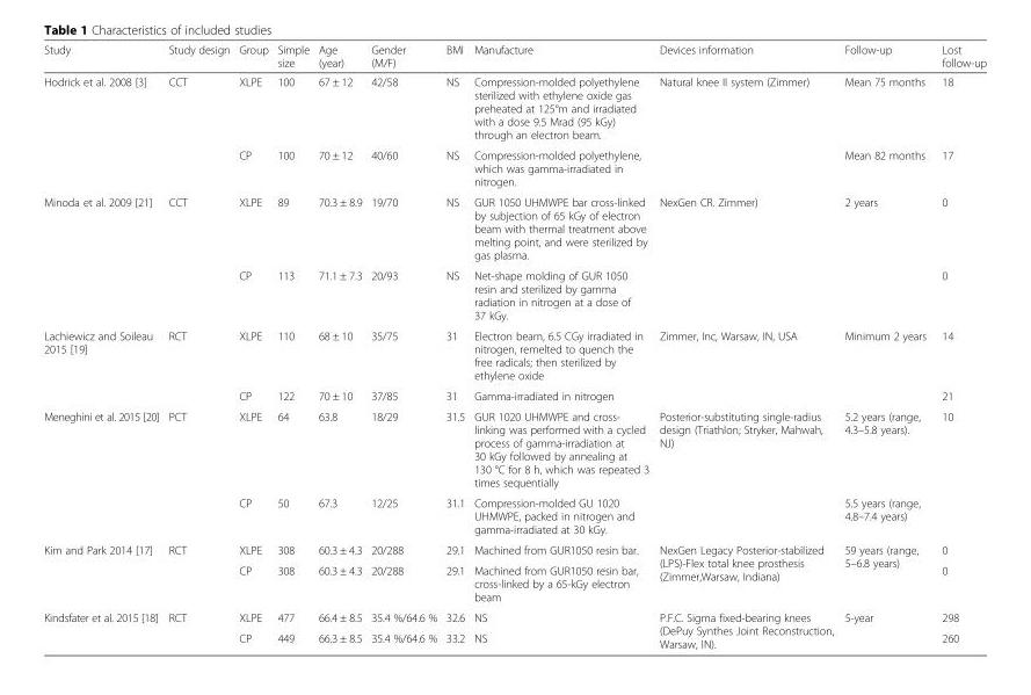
<table><thead><tr><td>Study</td><td>Study design</td><td>Group</td><td>Simple size</td><td>Age (year)</td><td>Gender (M/F)</td><td>BMI</td><td>Manufacture</td><td>Devices information</td><td>Follow-up</td><td>Lost follow-up</td></tr></thead><tbody><tr><td rowspan="2">Hodrick et al. 2008 [3]</td><td>CCT</td><td>XLPE</td><td>100</td><td>67 ± 12</td><td>42/58</td><td>NS</td><td>Compression-molded polyethylene sterilized with ethylene oxide gas preheated at 125°m and irradiated with a dose 9.5 Mrad (95 kGy) through an electron beam.</td><td rowspan="2">Natural knee II system (Zimmer)</td><td>Mean 75 months</td><td>18</td></tr><tr><td></td><td>CP</td><td>100</td><td>70 ± 12</td><td>40/60</td><td>NS</td><td>Compression-molded polyethylene, which was gamma-irradiated in nitrogen.</td><td>Mean 82 months</td><td>17</td></tr><tr><td rowspan="2">Minoda et al. 2009 [21]</td><td>CCT</td><td>XLPE</td><td>89</td><td>70.3 ± 8.9</td><td>19/70</td><td>NS</td><td>GUR 1050 UHMWPE bar cross-linked by subjection of 65 kGy of electron beam with thermal treatment above melting point, and were sterilized by gas plasma.</td><td rowspan="2">NexGen CR. Zimmer)</td><td rowspan="2">2 years</td><td>0</td></tr><tr><td></td><td>CP</td><td>113</td><td>71.1 ± 7.3</td><td>20/93</td><td>NS</td><td>Net-shape molding of GUR 1050 resin and sterilized by gamma radiation in nitrogen at a dose of 37 kGy.</td><td>0</td></tr><tr><td rowspan="2">Lachiewicz and Soileau 2015 [19]</td><td>RCT</td><td>XLPE</td><td>110</td><td>68 ± 10</td><td>35/75</td><td>31</td><td>Electron beam, 6.5 CGy irradiated in nitrogen, remelted to quench the free radicals; then sterilized by ethylene oxide</td><td rowspan="2">Zimmer, Inc, Warsaw, IN, USA</td><td>Minimum 2 years</td><td>14</td></tr><tr><td></td><td>CP</td><td>122</td><td>70 ± 10</td><td>37/85</td><td>31</td><td>Gamma-irradiated in nitrogen</td><td></td><td>21</td></tr><tr><td rowspan="2">Meneghini et al. 2015 [20]</td><td>PCT</td><td>XLPE</td><td>64</td><td>63.8</td><td>18/29</td><td>31.5</td><td>GUR 1020 UHMWPE and cross- linking was performed with a cycled process of gamma-irradiation at 30 kGy followed by annealing at 130 °C for 8 h, which was repeated 3 times sequentially</td><td rowspan="2">Posterior-substituting single-radius design (Triathlon; Stryker, Mahwah, NJ)</td><td>5.2 years (range, 4.3–5.8 years).</td><td rowspan="2">10</td></tr><tr><td></td><td>CP</td><td>50</td><td>67.3</td><td>12/25</td><td>31.1</td><td>Compression-molded GU 1020 UHMWPE, packed in nitrogen and gamma-irradiated at 30 kGy.</td><td>5.5 years (range, 4.8–7.4 years)</td></tr><tr><td rowspan="2">Kim and Park 2014 [17]</td><td rowspan="2">RCT</td><td>XLPE</td><td>308</td><td>60.3 ± 4.3</td><td>20/288</td><td>29.1</td><td>Machined from GUR1050 resin bar.</td><td rowspan="2">NexGen Legacy Posterior-stabilized (LPS)-Flex total knee prosthesis (Zimmer,Warsaw, Indiana)</td><td rowspan="2">59 years (range, 5–6.8 years)</td><td>0</td></tr><tr><td>CP</td><td>308</td><td>60.3 ± 4.3</td><td>20/288</td><td>29.1</td><td>Machined from GUR1050 resin bar, cross-linked by a 65-kGy electron beam</td><td>0</td></tr><tr><td rowspan="2">Kindsfater et al. 2015 [18]</td><td rowspan="2">RCT</td><td>XLPE</td><td>477</td><td>66.4 ± 8.5</td><td>35.4 %/64.6 %</td><td>32.6</td><td>NS</td><td rowspan="2">P.F.C. Sigma fixed-bearing knees (DePuy Synthes Joint Reconstruction, Warsaw, IN).</td><td rowspan="2">5-year</td><td>298</td></tr><tr><td>CP</td><td>449</td><td>66.3 ± 8.5</td><td>35.4 %/64.6 %</td><td>33.2</td><td>NS</td><td>260</td></tr></tbody></table>